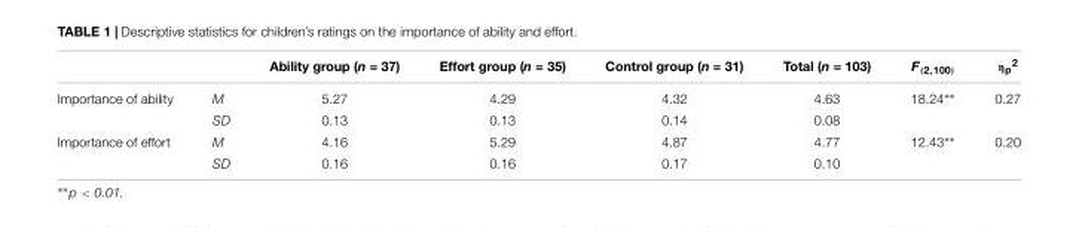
<table><thead><tr><td></td><td></td><td>Ability group (n = 37)</td><td>Effort group (n = 35)</td><td>Control group (n = 31)</td><td>Total (n = 103)</td><td>F<sub>(2,100)</sub></td><td>η<sub>p</sub><sup>2</sup></td></tr></thead><tbody><tr><td rowspan="2">Importance of ability</td><td>M</td><td>5.27</td><td>4.29</td><td>4.32</td><td>4.63</td><td>18.24∗∗</td><td>0.27</td></tr><tr><td>SD</td><td>0.13</td><td>0.13</td><td>0.14</td><td>0.08</td><td></td><td></td></tr><tr><td rowspan="2">Importance of effort</td><td>M</td><td>4.16</td><td>5.29</td><td>4.87</td><td>4.77</td><td>12.43∗∗</td><td>0.20</td></tr><tr><td>SD</td><td>0.16</td><td>0.16</td><td>0.17</td><td>0.10</td><td></td><td></td></tr></tbody></table>